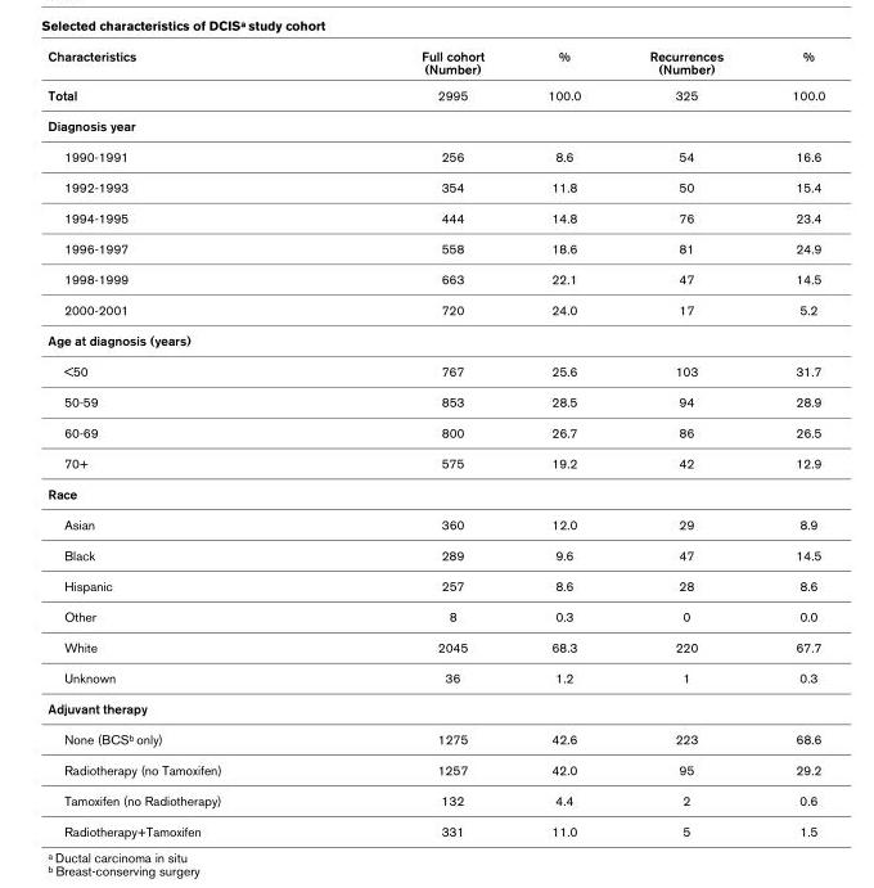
<table><thead><tr><td>Characteristics</td><td>Full cohort (Number)</td><td>%</td><td>Recurrences (Number)</td><td>%</td></tr></thead><tbody><tr><td>Total</td><td>2995</td><td>100.0</td><td>325</td><td>100.0</td></tr><tr><td colspan="5">Diagnosis year</td></tr><tr><td>1990-1991</td><td>256</td><td>8.6</td><td>54</td><td>16.6</td></tr><tr><td>1992-1993</td><td>354</td><td>11.8</td><td>50</td><td>15.4</td></tr><tr><td>1994-1995</td><td>444</td><td>14.8</td><td>76</td><td>23.4</td></tr><tr><td>1996-1997</td><td>558</td><td>18.6</td><td>81</td><td>24.9</td></tr><tr><td>1998-1999</td><td>663</td><td>22.1</td><td>47</td><td>14.5</td></tr><tr><td>2000-2001</td><td>720</td><td>24.0</td><td>17</td><td>5.2</td></tr><tr><td colspan="5">Age at diagnosis (years)</td></tr><tr><td>&lt;50</td><td>767</td><td>25.6</td><td>103</td><td>31.7</td></tr><tr><td>50-59</td><td>853</td><td>28.5</td><td>94</td><td>28.9</td></tr><tr><td>60-69</td><td>800</td><td>26.7</td><td>86</td><td>26.5</td></tr><tr><td>70+</td><td>575</td><td>19.2</td><td>42</td><td>12.9</td></tr><tr><td colspan="5">Race</td></tr><tr><td>Asian</td><td>360</td><td>12.0</td><td>29</td><td>8.9</td></tr><tr><td>Black</td><td>289</td><td>9.6</td><td>47</td><td>14.5</td></tr><tr><td>Hispanic</td><td>257</td><td>8.6</td><td>28</td><td>8.6</td></tr><tr><td>Other</td><td>8</td><td>0.3</td><td>0</td><td>0.0</td></tr><tr><td>White</td><td>2045</td><td>68.3</td><td>220</td><td>67.7</td></tr><tr><td>Unknown</td><td>36</td><td>1.2</td><td>1</td><td>0.3</td></tr><tr><td colspan="5">Adjuvant therapy</td></tr><tr><td>None (BCS<sup>b</sup> only)</td><td>1275</td><td>42.6</td><td>223</td><td>68.6</td></tr><tr><td>Radiotherapy (no Tamoxifen)</td><td>1257</td><td>42.0</td><td>95</td><td>29.2</td></tr><tr><td>Tamoxifen (no Radiotherapy)</td><td>132</td><td>4.4</td><td>2</td><td>0.6</td></tr><tr><td>Radiotherapy+Tamoxifen</td><td>331</td><td>11.0</td><td>5</td><td>1.5</td></tr></tbody></table>